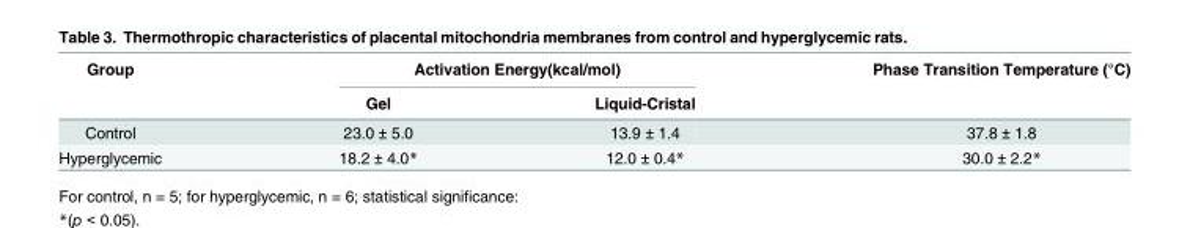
<table><thead><tr><td rowspan="2">Group</td><td colspan="2">Activation Energy(kcal/mol)</td><td rowspan="2">Phase Transition Temperature (°C)</td></tr><tr><td>Gel</td><td>Liquid-Cristal</td></tr></thead><tbody><tr><td>Control</td><td>23.0 ± 5.0</td><td>13.9 ± 1.4</td><td>37.8 ± 1.8</td></tr><tr><td>Hyperglycemic</td><td>18.2 ± 4.0*</td><td>12.0 ± 0.4*</td><td>30.0 ± 2.2*</td></tr></tbody></table>